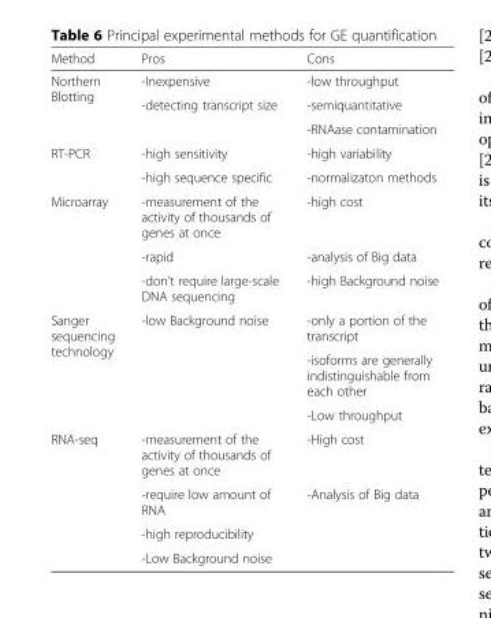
<table><thead><tr><td>Method</td><td>Pros</td><td>Cons</td></tr></thead><tbody><tr><td rowspan="3">Northern Blotting</td><td>-Inexpensive</td><td>-low throughput</td></tr><tr><td rowspan="2">-detecting transcript size</td><td>-semiquantitative</td></tr><tr><td>-RNAase contamination</td></tr><tr><td rowspan="2">RT-PCR</td><td>-high sensitivity</td><td>-high variability</td></tr><tr><td>-high sequence specific</td><td>-normalizaton methods</td></tr><tr><td rowspan="3">Microarray</td><td>-measurement of the activity of thousands of genes at once</td><td>-high cost</td></tr><tr><td>-rapid</td><td>-analysis of Big data</td></tr><tr><td>-don&#x27;t require large-scale DNA sequencing</td><td>-high Background noise</td></tr><tr><td rowspan="3">Sanger sequencing technology</td><td rowspan="3">-low Background noise</td><td>-only a portion of the transcript</td></tr><tr><td>-isoforms are generally indistinguishable from each other</td></tr><tr><td>-Low throughput</td></tr><tr><td rowspan="4">RNA-seq</td><td>-measurement of the activity of thousands of genes at once</td><td>-High cost</td></tr><tr><td>-require low amount of RNA</td><td rowspan="3">-Analysis of Big data</td></tr><tr><td>-high reproducibility</td></tr><tr><td>-Low Background noise</td></tr></tbody></table>